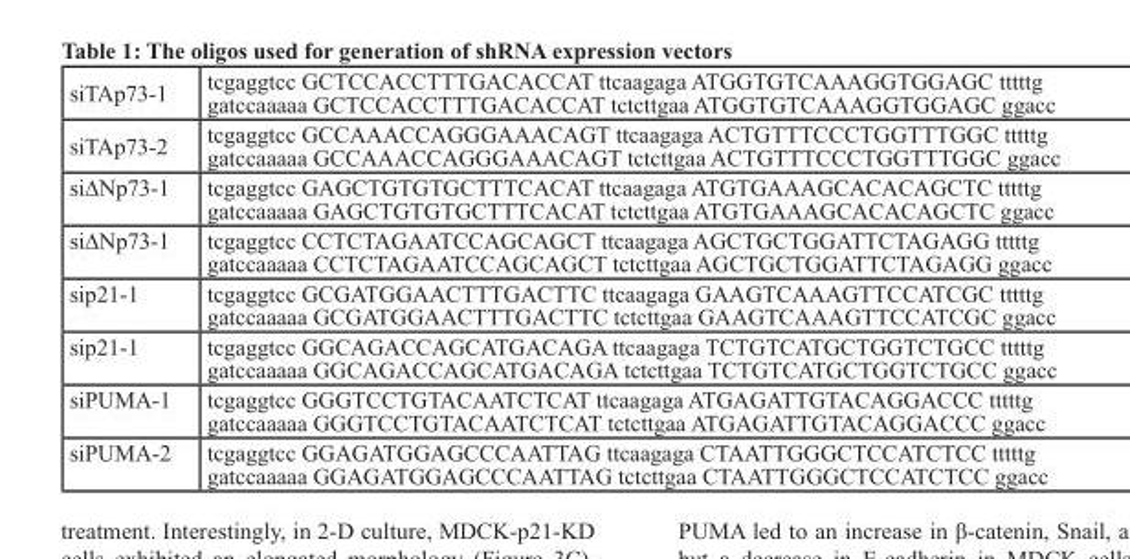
<table><tbody><tr><td>siTAp73-1</td><td>tcgaggtcc GCTCCACCTTTGACACCAT ttcaagaga ATGGTGTCAAAGGTGGAGC tttttg gatccaaaaa GCTCCACCTTTGACACCAT tctcttgaa ATGGTGTCAAAGGTGGAGC ggacc</td></tr><tr><td>siTAp73-2</td><td>tcgaggtcc GCCAAACCAGGGAAACAGT ttcaagaga ACTGTTTCCCTGGTTTGGC tttttg gatccaaaaa GCCAAACCAGGGAAACAGT tctcttgaa ACTGTTTCCCTGGTTTGGC ggacc</td></tr><tr><td>si∆Np73-1</td><td>tcgaggtcc GAGCTGTGTGCTTTCACAT ttcaagaga ATGTGAAAGCACACAGCTC tttttg gatccaaaaa GAGCTGTGTGCTTTCACAT tctcttgaa ATGTGAAAGCACACAGCTC ggacc</td></tr><tr><td>si∆Np73-1</td><td>tcgaggtcc CCTCTAGAATCCAGCAGCT ttcaagaga AGCTGCTGGATTCTAGAGG tttttg gatccaaaaa CCTCTAGAATCCAGCAGCT tctcttgaa AGCTGCTGGATTCTAGAGG ggacc</td></tr><tr><td>sip21-1</td><td>tcgaggtcc GCGATGGAACTTTGACTTC ttcaagaga GAAGTCAAAGTTCCATCGC tttttg gatccaaaaa GCGATGGAACTTTGACTTC tctcttgaa GAAGTCAAAGTTCCATCGC ggacc</td></tr><tr><td>sip21-1</td><td>tcgaggtcc GGCAGACCAGCATGACAGA ttcaagaga TCTGTCATGCTGGTCTGCC tttttg gatccaaaaa GGCAGACCAGCATGACAGA tctcttgaa TCTGTCATGCTGGTCTGCC ggacc</td></tr><tr><td>siPUMA-1</td><td>tcgaggtcc GGGTCCTGTACAATCTCAT ttcaagaga ATGAGATTGTACAGGACCC tttttg gatccaaaaa GGGTCCTGTACAATCTCAT tctcttgaa ATGAGATTGTACAGGACCC ggacc</td></tr><tr><td>siPUMA-2</td><td>tcgaggtcc GGAGATGGAGCCCAATTAG ttcaagaga CTAATTGGGCTCCATCTCC tttttg gatccaaaaa GGAGATGGAGCCCAATTAG tctcttgaa CTAATTGGGCTCCATCTCC ggacc</td></tr></tbody></table>